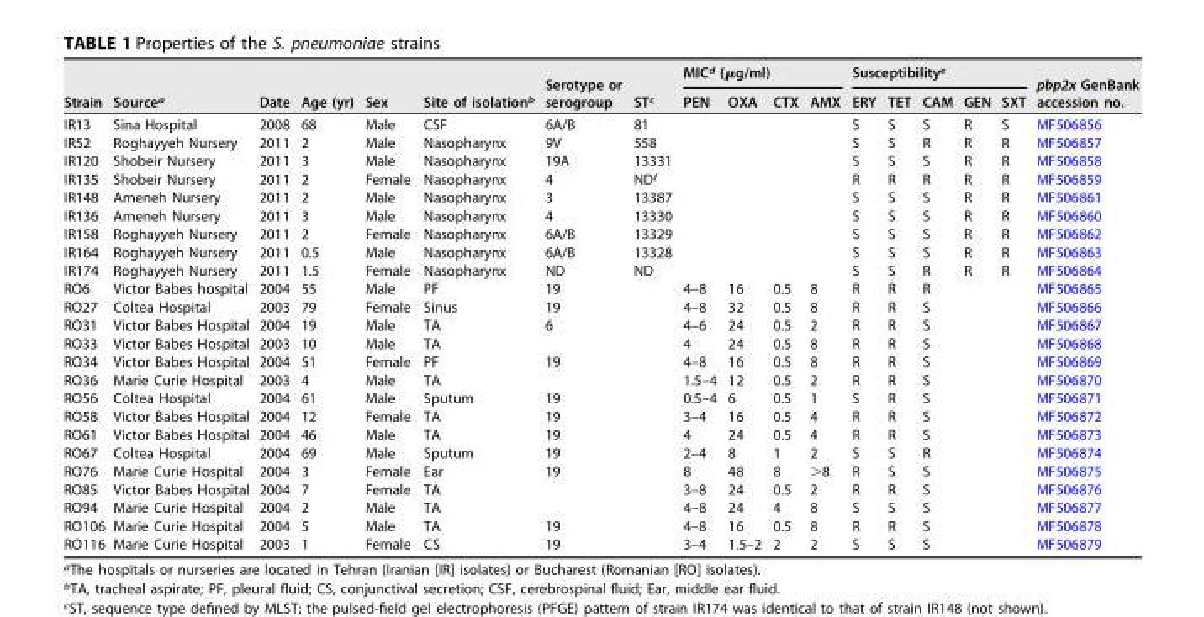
<table><thead><tr><td rowspan="2">Strain</td><td rowspan="2">Source<sup>a</sup></td><td rowspan="2">Date</td><td rowspan="2">Age (yr)</td><td rowspan="2">Sex</td><td rowspan="2">Site of isolation<sup>b</sup></td><td rowspan="2">Serotype or serogroup</td><td rowspan="2">ST<sup>c</sup></td><td colspan="4">MIC<sup>d</sup> (μg/ml)</td><td colspan="5">Susceptibility<sup>e</sup></td><td rowspan="2">pbp2x GenBank accession no.</td></tr><tr><td>PEN</td><td>OXA</td><td>CTX</td><td>AMX</td><td>ERY</td><td>TET</td><td>CAM</td><td>GEN</td><td>SXT</td></tr></thead><tbody><tr><td>IR13</td><td>Sina Hospital</td><td>2008</td><td>68</td><td>Male</td><td>CSF</td><td>6A/B</td><td>81</td><td></td><td></td><td></td><td></td><td>S</td><td>S</td><td>S</td><td>R</td><td>S</td><td>MF506856</td></tr><tr><td>IR52</td><td>Roghayyeh Nursery</td><td>2011</td><td>2</td><td>Male</td><td>Nasopharynx</td><td>9V</td><td>558</td><td></td><td></td><td></td><td></td><td>S</td><td>S</td><td>R</td><td>R</td><td>R</td><td>MF506857</td></tr><tr><td>IR120</td><td>Shobeir Nursery</td><td>2011</td><td>3</td><td>Male</td><td>Nasopharynx</td><td>19A</td><td>13331</td><td></td><td></td><td></td><td></td><td>S</td><td>S</td><td>S</td><td>R</td><td>R</td><td>MF506858</td></tr><tr><td>IR135</td><td>Shobeir Nursery</td><td>2011</td><td>2</td><td>Female</td><td>Nasopharynx</td><td>4</td><td>ND<sup>f</sup></td><td></td><td></td><td></td><td></td><td>R</td><td>R</td><td>R</td><td>R</td><td>R</td><td>MF506859</td></tr><tr><td>IR148</td><td>Ameneh Nursery</td><td>2011</td><td>2</td><td>Male</td><td>Nasopharynx</td><td>3</td><td>13387</td><td></td><td></td><td></td><td></td><td>S</td><td>S</td><td>S</td><td>R</td><td>R</td><td>MF506861</td></tr><tr><td>IR136</td><td>Ameneh Nursery</td><td>2011</td><td>3</td><td>Male</td><td>Nasopharynx</td><td>4</td><td>13330</td><td></td><td></td><td></td><td></td><td>S</td><td>S</td><td>S</td><td>R</td><td>R</td><td>MF506860</td></tr><tr><td>IR158</td><td>Roghayyeh Nursery</td><td>2011</td><td>2</td><td>Female</td><td>Nasopharynx</td><td>6A/B</td><td>13329</td><td></td><td></td><td></td><td></td><td>S</td><td>S</td><td>S</td><td>R</td><td>R</td><td>MF506862</td></tr><tr><td>IR164</td><td>Roghayyeh Nursery</td><td>2011</td><td>0.5</td><td>Male</td><td>Nasopharynx</td><td>6A/B</td><td>13328</td><td></td><td></td><td></td><td></td><td>S</td><td>S</td><td>S</td><td>R</td><td>R</td><td>MF506863</td></tr><tr><td>IR174</td><td>Roghayyeh Nursery</td><td>2011</td><td>1.5</td><td>Female</td><td>Nasopharynx</td><td>ND</td><td>ND</td><td></td><td></td><td></td><td></td><td>S</td><td>S</td><td>R</td><td>R</td><td>R</td><td>MF506864</td></tr><tr><td>RO6</td><td>Victor Babes hospital</td><td>2004</td><td>55</td><td>Male</td><td>PF</td><td>19</td><td></td><td>4–8</td><td>16</td><td>0.5</td><td>8</td><td>R</td><td>R</td><td>R</td><td></td><td></td><td>MF506865</td></tr><tr><td>RO27</td><td>Coltea Hospital</td><td>2003</td><td>79</td><td>Female</td><td>Sinus</td><td>19</td><td></td><td>4–8</td><td>32</td><td>0.5</td><td>8</td><td>R</td><td>R</td><td>S</td><td></td><td></td><td>MF506866</td></tr><tr><td>RO31</td><td>Victor Babes Hospital</td><td>2004</td><td>19</td><td>Male</td><td>TA</td><td>6</td><td></td><td>4–6</td><td>24</td><td>0.5</td><td>2</td><td>R</td><td>R</td><td>S</td><td></td><td></td><td>MF506867</td></tr><tr><td>RO33</td><td>Victor Babes Hospital</td><td>2003</td><td>10</td><td>Male</td><td>TA</td><td></td><td></td><td>4</td><td>24</td><td>0.5</td><td>8</td><td>R</td><td>R</td><td>S</td><td></td><td></td><td>MF506868</td></tr><tr><td>RO34</td><td>Victor Babes Hospital</td><td>2004</td><td>51</td><td>Female</td><td>PF</td><td>19</td><td></td><td>4–8</td><td>16</td><td>0.5</td><td>8</td><td>R</td><td>R</td><td>S</td><td></td><td></td><td>MF506869</td></tr><tr><td>RO36</td><td>Marie Curie Hospital</td><td>2003</td><td>4</td><td>Male</td><td>TA</td><td></td><td></td><td>1.5–4</td><td>12</td><td>0.5</td><td>2</td><td>R</td><td>R</td><td>S</td><td></td><td></td><td>MF506870</td></tr><tr><td>RO56</td><td>Coltea Hospital</td><td>2004</td><td>61</td><td>Male</td><td>Sputum</td><td>19</td><td></td><td>0.5–4</td><td>6</td><td>0.5</td><td>1</td><td>S</td><td>R</td><td>S</td><td></td><td></td><td>MF506871</td></tr><tr><td>RO58</td><td>Victor Babes Hospital</td><td>2004</td><td>12</td><td>Female</td><td>TA</td><td>19</td><td></td><td>3–4</td><td>16</td><td>0.5</td><td>4</td><td>R</td><td>R</td><td>S</td><td></td><td></td><td>MF506872</td></tr><tr><td>RO61</td><td>Victor Babes Hospital</td><td>2004</td><td>46</td><td>Male</td><td>TA</td><td>19</td><td></td><td>4</td><td>24</td><td>0.5</td><td>4</td><td>R</td><td>R</td><td>S</td><td></td><td></td><td>MF506873</td></tr><tr><td>RO67</td><td>Coltea Hospital</td><td>2004</td><td>69</td><td>Male</td><td>Sputum</td><td>19</td><td></td><td>2–4</td><td>8</td><td>1</td><td>2</td><td>S</td><td>S</td><td>R</td><td></td><td></td><td>MF506874</td></tr><tr><td>RO76</td><td>Marie Curie Hospital</td><td>2004</td><td>3</td><td>Female</td><td>Ear</td><td>19</td><td></td><td>8</td><td>48</td><td>8</td><td>&gt;8</td><td>R</td><td>S</td><td>S</td><td></td><td></td><td>MF506875</td></tr><tr><td>RO85</td><td>Victor Babes Hospital</td><td>2004</td><td>7</td><td>Female</td><td>TA</td><td></td><td></td><td>3–8</td><td>24</td><td>0.5</td><td>2</td><td>R</td><td>R</td><td>S</td><td></td><td></td><td>MF506876</td></tr><tr><td>RO94</td><td>Marie Curie Hospital</td><td>2004</td><td>2</td><td>Male</td><td>TA</td><td></td><td></td><td>4–8</td><td>24</td><td>4</td><td>8</td><td>S</td><td>S</td><td>S</td><td></td><td></td><td>MF506877</td></tr><tr><td>RO106</td><td>Marie Curie Hospital</td><td>2004</td><td>5</td><td>Male</td><td>TA</td><td>19</td><td></td><td>4–8</td><td>16</td><td>0.5</td><td>8</td><td>R</td><td>R</td><td>S</td><td></td><td></td><td>MF506878</td></tr><tr><td>RO116</td><td>Marie Curie Hospital</td><td>2003</td><td>1</td><td>Female</td><td>CS</td><td>19</td><td></td><td>3–4</td><td>1.5–2</td><td>2</td><td>2</td><td>S</td><td>S</td><td>S</td><td></td><td></td><td>MF506879</td></tr></tbody></table>